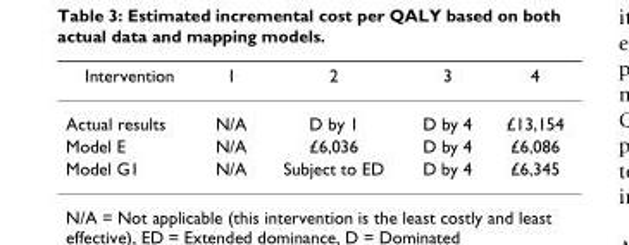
<table><thead><tr><td>Intervention</td><td>1</td><td>2</td><td>3</td><td>4</td></tr></thead><tbody><tr><td>Actual results</td><td>N/A</td><td>D by 1</td><td>D by 4</td><td>£13,154</td></tr><tr><td>Model E</td><td>N/A</td><td>£6,036</td><td>D by 4</td><td>£6,086</td></tr><tr><td>Model G1</td><td>N/A</td><td>Subject to ED</td><td>D by 4</td><td>£6,345</td></tr></tbody></table>